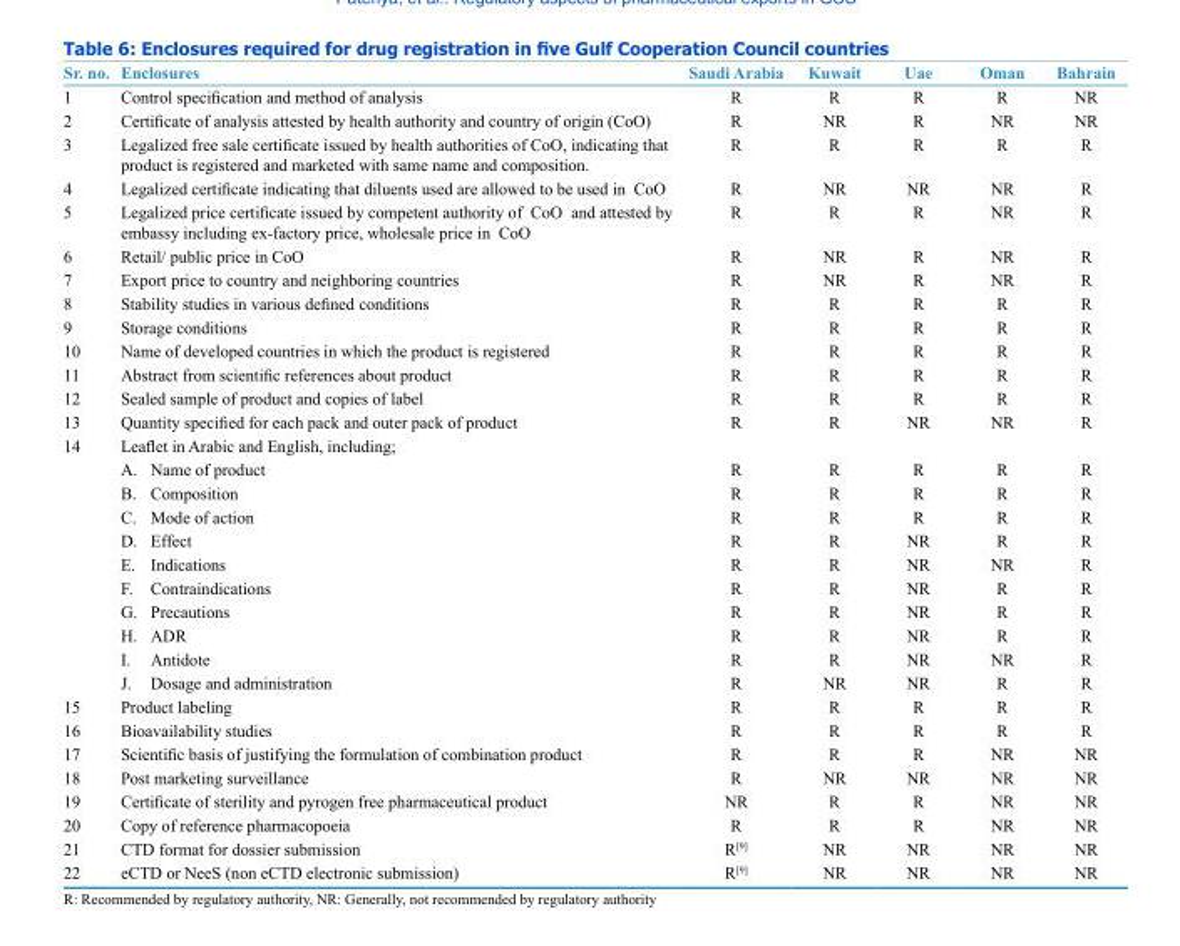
<table><thead><tr><td>Sr. no.</td><td>Enclosures</td><td>Saudi Arabia</td><td>Kuwait</td><td>Uae</td><td>Oman</td><td>Bahrain</td></tr></thead><tbody><tr><td>1</td><td>Control specification and method of analysis</td><td>R</td><td>R</td><td>R</td><td>R</td><td>NR</td></tr><tr><td>2</td><td>Certificate of analysis attested by health authority and country of origin (CoO)</td><td>R</td><td>NR</td><td>R</td><td>NR</td><td>NR</td></tr><tr><td>3</td><td>Legalized free sale certificate issued by health authorities of CoO, indicating that product is registered and marketed with same name and composition.</td><td>R</td><td>R</td><td>R</td><td>R</td><td>R</td></tr><tr><td>4</td><td>Legalized certificate indicating that diluents used are allowed to be used in CoO</td><td>R</td><td>NR</td><td>NR</td><td>NR</td><td>R</td></tr><tr><td>5</td><td>Legalized price certificate issued by competent authority of CoO and attested by embassy including ex-factory price, wholesale price in CoO</td><td>R</td><td>R</td><td>R</td><td>NR</td><td>R</td></tr><tr><td>6</td><td>Retail/ public price in CoO</td><td>R</td><td>NR</td><td>R</td><td>NR</td><td>R</td></tr><tr><td>7</td><td>Export price to country and neighboring countries</td><td>R</td><td>NR</td><td>R</td><td>NR</td><td>R</td></tr><tr><td>8</td><td>Stability studies in various defined conditions</td><td>R</td><td>R</td><td>R</td><td>R</td><td>R</td></tr><tr><td>9</td><td>Storage conditions</td><td>R</td><td>R</td><td>R</td><td>R</td><td>R</td></tr><tr><td>10</td><td>Name of developed countries in which the product is registered</td><td>R</td><td>R</td><td>R</td><td>R</td><td>R</td></tr><tr><td>11</td><td>Abstract from scientific references about product</td><td>R</td><td>R</td><td>R</td><td>R</td><td>R</td></tr><tr><td>12</td><td>Sealed sample of product and copies of label</td><td>R</td><td>R</td><td>R</td><td>R</td><td>R</td></tr><tr><td>13</td><td>Quantity specified for each pack and outer pack of product</td><td>R</td><td>R</td><td>NR</td><td>NR</td><td>R</td></tr><tr><td rowspan="11">14</td><td>Leaflet in Arabic and English, including;</td><td></td><td></td><td></td><td></td><td></td></tr><tr><td>A. Name of product</td><td>R</td><td>R</td><td>R</td><td>R</td><td>R</td></tr><tr><td>B. Composition</td><td>R</td><td>R</td><td>R</td><td>R</td><td>R</td></tr><tr><td>C. Mode of action</td><td>R</td><td>R</td><td>R</td><td>R</td><td>R</td></tr><tr><td>D. Effect</td><td>R</td><td>R</td><td>NR</td><td>R</td><td>R</td></tr><tr><td>E. Indications</td><td>R</td><td>R</td><td>NR</td><td>NR</td><td>R</td></tr><tr><td>F. Contraindications</td><td>R</td><td>R</td><td>NR</td><td>R</td><td>R</td></tr><tr><td>G. Precautions</td><td>R</td><td>R</td><td>NR</td><td>R</td><td>R</td></tr><tr><td>H. ADR</td><td>R</td><td>R</td><td>NR</td><td>R</td><td>R</td></tr><tr><td>I. Antidote</td><td>R</td><td>R</td><td>NR</td><td>NR</td><td>R</td></tr><tr><td>J. Dosage and administration</td><td>R</td><td>NR</td><td>NR</td><td>R</td><td>R</td></tr><tr><td>15</td><td>Product labeling</td><td>R</td><td>R</td><td>R</td><td>R</td><td>R</td></tr><tr><td>16</td><td>Bioavailability studies</td><td>R</td><td>R</td><td>R</td><td>R</td><td>R</td></tr><tr><td>17</td><td>Scientific basis of justifying the formulation of combination product</td><td>R</td><td>R</td><td>R</td><td>NR</td><td>NR</td></tr><tr><td>18</td><td>Post marketing surveillance</td><td>R</td><td>NR</td><td>NR</td><td>NR</td><td>NR</td></tr><tr><td>19</td><td>Certificate of sterility and pyrogen free pharmaceutical product</td><td>NR</td><td>R</td><td>R</td><td>NR</td><td>NR</td></tr><tr><td>20</td><td>Copy of reference pharmacopoeia</td><td>R</td><td>R</td><td>R</td><td>NR</td><td>NR</td></tr><tr><td>21</td><td>CTD format for dossier submission</td><td>R[9]</td><td>NR</td><td>NR</td><td>NR</td><td>NR</td></tr><tr><td>22</td><td>eCTD or NeeS (non eCTD electronic submission)</td><td>R[9]</td><td>NR</td><td>NR</td><td>NR</td><td>NR</td></tr></tbody></table>